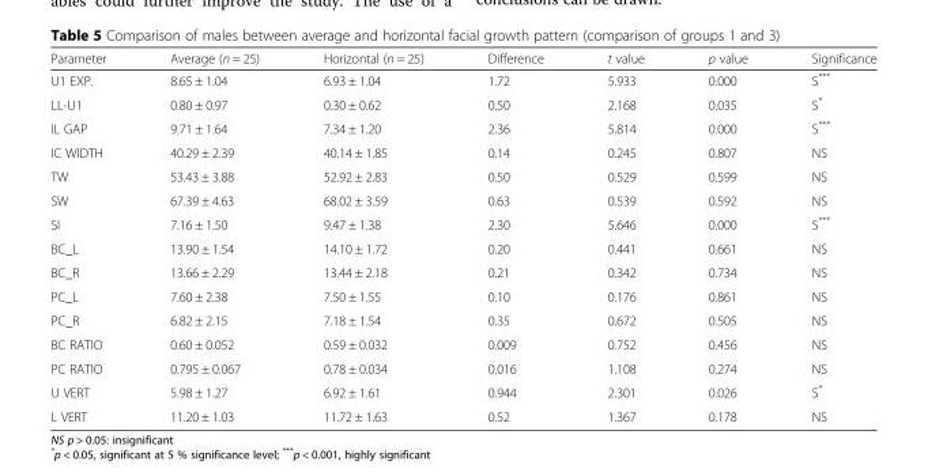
<table><thead><tr><td>Parameter</td><td>Average (n = 25)</td><td>Horizontal (n = 25)</td><td>Difference</td><td>t value</td><td>p value</td><td>Significance</td></tr></thead><tbody><tr><td>U1 EXP.</td><td>8.65 ± 1.04</td><td>6.93 ± 1.04</td><td>1.72</td><td>5.933</td><td>0.000</td><td>S***</td></tr><tr><td>LL-U1</td><td>0.80 ± 0.97</td><td>0.30 ± 0.62</td><td>0.50</td><td>2.168</td><td>0.035</td><td>S*</td></tr><tr><td>IL GAP</td><td>9.71 ± 1.64</td><td>7.34 ± 1.20</td><td>2.36</td><td>5.814</td><td>0.000</td><td>S***</td></tr><tr><td>IC WIDTH</td><td>40.29 ± 2.39</td><td>40.14 ± 1.85</td><td>0.14</td><td>0.245</td><td>0.807</td><td>NS</td></tr><tr><td>TW</td><td>53.43 ± 3.88</td><td>52.92 ± 2.83</td><td>0.50</td><td>0.529</td><td>0.599</td><td>NS</td></tr><tr><td>SW</td><td>67.39 ± 4.63</td><td>68.02 ± 3.59</td><td>0.63</td><td>0.539</td><td>0.592</td><td>NS</td></tr><tr><td>SI</td><td>7.16 ± 1.50</td><td>9.47 ± 1.38</td><td>2.30</td><td>5.646</td><td>0.000</td><td>S***</td></tr><tr><td>BC_L</td><td>13.90 ± 1.54</td><td>14.10 ± 1.72</td><td>0.20</td><td>0.441</td><td>0.661</td><td>NS</td></tr><tr><td>BC_R</td><td>13.66 ± 2.29</td><td>13.44 ± 2.18</td><td>0.21</td><td>0.342</td><td>0.734</td><td>NS</td></tr><tr><td>PC_L</td><td>7.60 ± 2.38</td><td>7.50 ± 1.55</td><td>0.10</td><td>0.176</td><td>0.861</td><td>NS</td></tr><tr><td>PC_R</td><td>6.82 ± 2.15</td><td>7.18 ± 1.54</td><td>0.35</td><td>0.672</td><td>0.505</td><td>NS</td></tr><tr><td>BC RATIO</td><td>0.60 ± 0.052</td><td>0.59 ± 0.032</td><td>0.009</td><td>0.752</td><td>0.456</td><td>NS</td></tr><tr><td>PC RATIO</td><td>0.795 ± 0.067</td><td>0.78 ± 0.034</td><td>0.016</td><td>1.108</td><td>0.274</td><td>NS</td></tr><tr><td>U VERT</td><td>5.98 ± 1.27</td><td>6.92 ± 1.61</td><td>0.944</td><td>2.301</td><td>0.026</td><td>S*</td></tr><tr><td>L VERT</td><td>11.20 ± 1.03</td><td>11.72 ± 1.63</td><td>0.52</td><td>1.367</td><td>0.178</td><td>NS</td></tr></tbody></table>